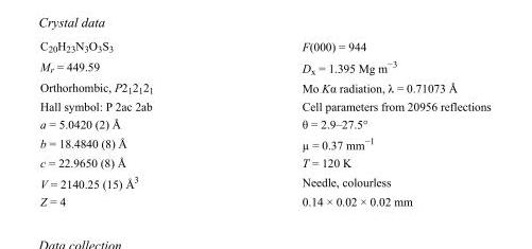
<table><tbody><tr><td>C<sub>20</sub>H<sub>23</sub>N<sub>3</sub>O<sub>3</sub>S<sub>3</sub></td><td>F(000) = 944</td></tr><tr><td>M<sub>r</sub> = 449.59</td><td>D<sub>x</sub> = 1.395 Mg m<sup>−3</sup></td></tr><tr><td>Orthorhombic, P2<sub>1</sub>2<sub>1</sub>2<sub>1</sub></td><td>Mo Kα radiation, λ = 0.71073 Å</td></tr><tr><td>Hall symbol: P 2ac 2ab</td><td>Cell parameters from 20956 reflections</td></tr><tr><td>a = 5.0420 (2) Å</td><td>θ = 2.9–27.5°</td></tr><tr><td>b = 18.4840 (8) Å</td><td>µ = 0.37 mm<sup>−1</sup></td></tr><tr><td>c = 22.9650 (8) Å</td><td>T = 120 K</td></tr><tr><td>V = 2140.25 (15) Å<sup>3</sup></td><td>Needle, colourless</td></tr><tr><td>Z = 4</td><td>0.14 × 0.02 × 0.02 mm</td></tr></tbody></table>